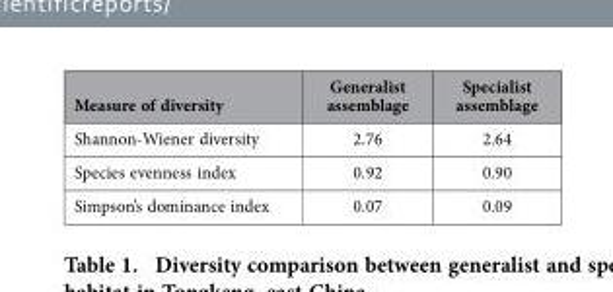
<table><thead><tr><td>Measure of diversity</td><td>Generalist assemblage</td><td>Specialist assemblage</td></tr></thead><tbody><tr><td>Shannon-Wiener diversity</td><td>2.76</td><td>2.64</td></tr><tr><td>Species evenness index</td><td>0.92</td><td>0.90</td></tr><tr><td>Simpson’s dominance index</td><td>0.07</td><td>0.09</td></tr></tbody></table>